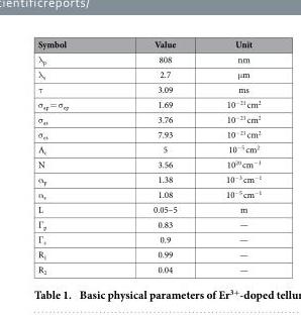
<table><thead><tr><td>Symbol</td><td>Value</td><td>Unit</td></tr></thead><tbody><tr><td>λ <sub>p</sub></td><td>808</td><td>nm</td></tr><tr><td>λ <sub>s</sub></td><td>2.7</td><td>μ m</td></tr><tr><td>τ</td><td>3.09</td><td>ms</td></tr><tr><td>σ <sub>ap</sub> = σ <sub>ep</sub></td><td>1.69</td><td>10<sup>−21</sup> cm<sup>2</sup></td></tr><tr><td>σ <sub>as</sub></td><td>3.76</td><td>10<sup>−21</sup> cm<sup>2</sup></td></tr><tr><td>σ <sub>es</sub></td><td>7.93</td><td>10<sup>−21</sup> cm<sup>2</sup></td></tr><tr><td>A<sub>c</sub></td><td>5</td><td>10<sup>−5</sup> cm<sup>2</sup></td></tr><tr><td>N</td><td>3.56</td><td>10<sup>20</sup> cm<sup>−3</sup></td></tr><tr><td>α <sub>p</sub></td><td>1.38</td><td>10<sup>−3</sup> cm<sup>−1</sup></td></tr><tr><td>α <sub>s</sub></td><td>1.08</td><td>10<sup>−5</sup> cm<sup>−1</sup></td></tr><tr><td>L</td><td>0.05–5</td><td>m</td></tr><tr><td>Γ <sub>p</sub></td><td>0.83</td><td>—</td></tr><tr><td>Γ <sub>s</sub></td><td>0.9</td><td>—</td></tr><tr><td>R<sub>1</sub></td><td>0.99</td><td>—</td></tr><tr><td>R<sub>2</sub></td><td>0.04</td><td>—</td></tr></tbody></table>